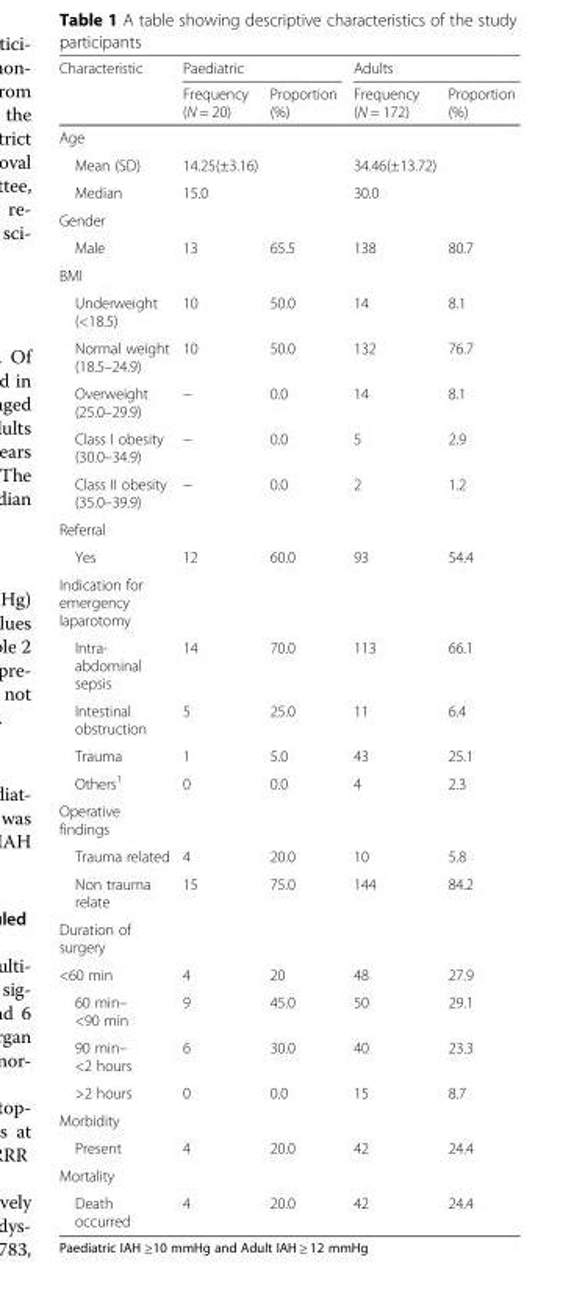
<table><thead><tr><td rowspan="2">Characteristic</td><td colspan="2">Paediatric</td><td colspan="2">Adults</td></tr><tr><td>Frequency (N = 20)</td><td>Proportion (%)</td><td>Frequency (N = 172)</td><td>Proportion (%)</td></tr></thead><tbody><tr><td colspan="5">Age</td></tr><tr><td>Mean (SD)</td><td>14.25(±3.16)</td><td></td><td>34.46(±13.72)</td><td></td></tr><tr><td>Median</td><td>15.0</td><td></td><td>30.0</td><td></td></tr><tr><td colspan="5">Gender</td></tr><tr><td>Male</td><td>13</td><td>65.5</td><td>138</td><td>80.7</td></tr><tr><td colspan="5">BMI</td></tr><tr><td>Underweight (&lt;18.5)</td><td>10</td><td>50.0</td><td>14</td><td>8.1</td></tr><tr><td>Normal weight (18.5–24.9)</td><td>10</td><td>50.0</td><td>132</td><td>76.7</td></tr><tr><td>Overweight (25.0–29.9)</td><td>−</td><td>0.0</td><td>14</td><td>8.1</td></tr><tr><td>Class I obesity (30.0–34.9)</td><td>−</td><td>0.0</td><td>5</td><td>2.9</td></tr><tr><td>Class II obesity (35.0–39.9)</td><td>−</td><td>0.0</td><td>2</td><td>1.2</td></tr><tr><td colspan="5">Referral</td></tr><tr><td>Yes</td><td>12</td><td>60.0</td><td>93</td><td>54.4</td></tr><tr><td colspan="5">Indication for emergency laparotomy</td></tr><tr><td>Intra- abdominal sepsis</td><td>14</td><td>70.0</td><td>113</td><td>66.1</td></tr><tr><td>Intestinal obstruction</td><td>5</td><td>25.0</td><td>11</td><td>6.4</td></tr><tr><td>Trauma</td><td>1</td><td>5.0</td><td>43</td><td>25.1</td></tr><tr><td>Others<sup>1</sup></td><td>0</td><td>0.0</td><td>4</td><td>2.3</td></tr><tr><td colspan="5">Operative findings</td></tr><tr><td>Trauma related</td><td>4</td><td>20.0</td><td>10</td><td>5.8</td></tr><tr><td>Non trauma relate</td><td>15</td><td>75.0</td><td>144</td><td>84.2</td></tr><tr><td colspan="5">Duration of surgery</td></tr><tr><td>&lt;60 min</td><td>4</td><td>20</td><td>48</td><td>27.9</td></tr><tr><td>60 min– &lt;90 min</td><td>9</td><td>45.0</td><td>50</td><td>29.1</td></tr><tr><td>90 min– &lt;2 hours</td><td>6</td><td>30.0</td><td>40</td><td>23.3</td></tr><tr><td>&gt;2 hours</td><td>0</td><td>0.0</td><td>15</td><td>8.7</td></tr><tr><td colspan="5">Morbidity</td></tr><tr><td>Present</td><td>4</td><td>20.0</td><td>42</td><td>24.4</td></tr><tr><td colspan="5">Mortality</td></tr><tr><td>Death occurred</td><td>4</td><td>20.0</td><td>42</td><td>24.4</td></tr></tbody></table>